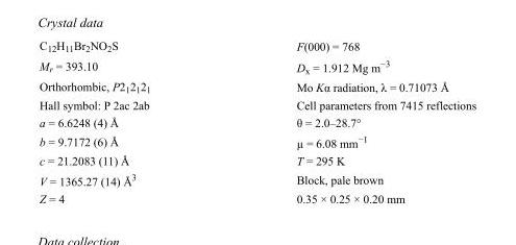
<table><tbody><tr><td>C<sub>12</sub>H<sub>11</sub>Br<sub>2</sub>NO<sub>2</sub>S</td><td>F(000) = 768</td></tr><tr><td>M<sub>r</sub> = 393.10</td><td>D<sub>x</sub> = 1.912 Mg m<sup>−3</sup></td></tr><tr><td>Orthorhombic, P2<sub>1</sub>2<sub>1</sub>2<sub>1</sub></td><td>Mo Kα radiation, λ = 0.71073 Å</td></tr><tr><td>Hall symbol: P 2ac 2ab</td><td>Cell parameters from 7415 reflections</td></tr><tr><td>a = 6.6248 (4) Å</td><td>θ = 2.0–28.7°</td></tr><tr><td>b = 9.7172 (6) Å</td><td>µ = 6.08 mm<sup>−1</sup></td></tr><tr><td>c = 21.2083 (11) Å</td><td>T = 295 K</td></tr><tr><td>V = 1365.27 (14) Å<sup>3</sup></td><td>Block, pale brown</td></tr><tr><td>Z = 4</td><td>0.35 × 0.25 × 0.20 mm</td></tr></tbody></table>